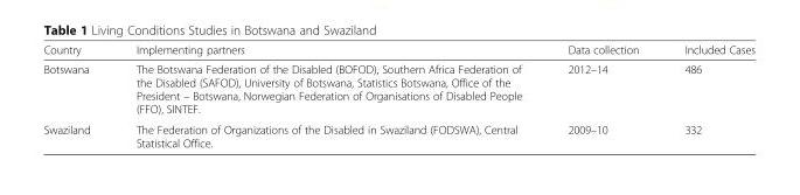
<table><thead><tr><td>Country</td><td>Implementing partners</td><td>Data collection</td><td>Included Cases</td></tr></thead><tbody><tr><td>Botswana</td><td>The Botswana Federation of the Disabled (BOFOD), Southern Africa Federation of the Disabled (SAFOD), University of Botswana, Statistics Botswana, Office of the President – Botswana, Norwegian Federation of Organisations of Disabled People (FFO), SINTEF.</td><td>2012–14</td><td>486</td></tr><tr><td>Swaziland</td><td>The Federation of Organizations of the Disabled in Swaziland (FODSWA), Central Statistical Office.</td><td>2009–10</td><td>332</td></tr></tbody></table>